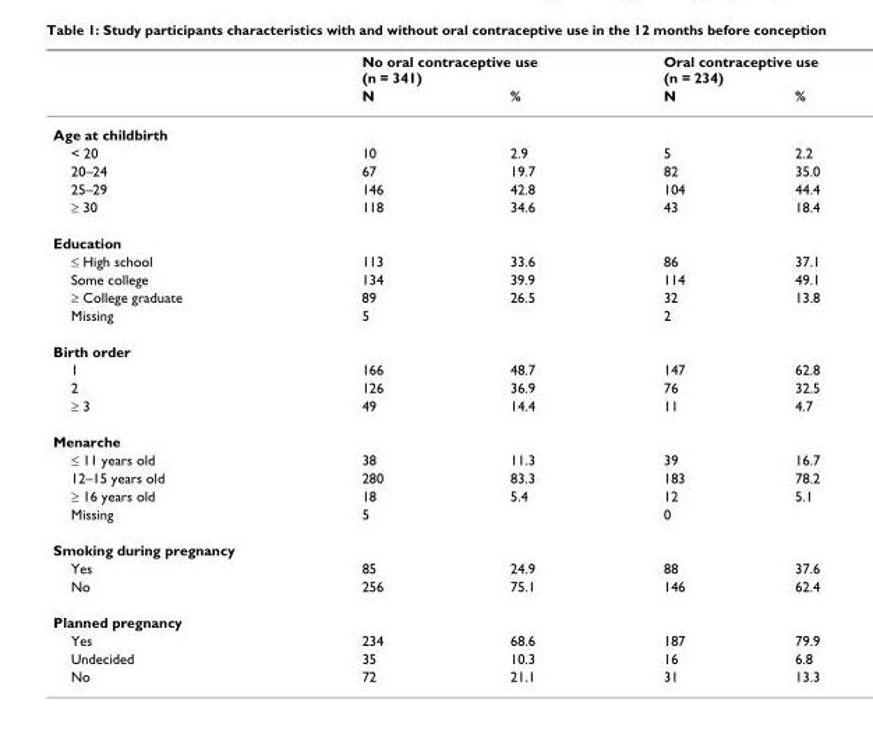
<table><thead><tr><td rowspan="2"></td><td colspan="2">No oral contraceptive use (n = 341)</td><td colspan="2">Oral contraceptive use (n = 234)</td></tr><tr><td>N</td><td>%</td><td>N</td><td>%</td></tr></thead><tbody><tr><td colspan="5">Age at childbirth</td></tr><tr><td>&lt; 20</td><td>10</td><td>2.9</td><td>5</td><td>2.2</td></tr><tr><td>20–24</td><td>67</td><td>19.7</td><td>82</td><td>35.0</td></tr><tr><td>25–29</td><td>146</td><td>42.8</td><td>104</td><td>44.4</td></tr><tr><td>≥ 30</td><td>118</td><td>34.6</td><td>43</td><td>18.4</td></tr><tr><td colspan="5">Education</td></tr><tr><td>≤ High school</td><td>113</td><td>33.6</td><td>86</td><td>37.1</td></tr><tr><td>Some college</td><td>134</td><td>39.9</td><td>114</td><td>49.1</td></tr><tr><td>≥ College graduate</td><td>89</td><td>26.5</td><td>32</td><td>13.8</td></tr><tr><td>Missing</td><td>5</td><td></td><td>2</td><td></td></tr><tr><td colspan="5">Birth order</td></tr><tr><td>1</td><td>166</td><td>48.7</td><td>147</td><td>62.8</td></tr><tr><td>2</td><td>126</td><td>36.9</td><td>76</td><td>32.5</td></tr><tr><td>≥ 3</td><td>49</td><td>14.4</td><td>11</td><td>4.7</td></tr><tr><td colspan="5">Menarche</td></tr><tr><td>≤ 11 years old</td><td>38</td><td>11.3</td><td>39</td><td>16.7</td></tr><tr><td>12–15 years old</td><td>280</td><td>83.3</td><td>183</td><td>78.2</td></tr><tr><td>≥ 16 years old</td><td>18</td><td>5.4</td><td>12</td><td>5.1</td></tr><tr><td>Missing</td><td>5</td><td></td><td>0</td><td></td></tr><tr><td colspan="5">Smoking during pregnancy</td></tr><tr><td>Yes</td><td>85</td><td>24.9</td><td>88</td><td>37.6</td></tr><tr><td>No</td><td>256</td><td>75.1</td><td>146</td><td>62.4</td></tr><tr><td colspan="5">Planned pregnancy</td></tr><tr><td>Yes</td><td>234</td><td>68.6</td><td>187</td><td>79.9</td></tr><tr><td>Undecided</td><td>35</td><td>10.3</td><td>16</td><td>6.8</td></tr><tr><td>No</td><td>72</td><td>21.1</td><td>31</td><td>13.3</td></tr></tbody></table>